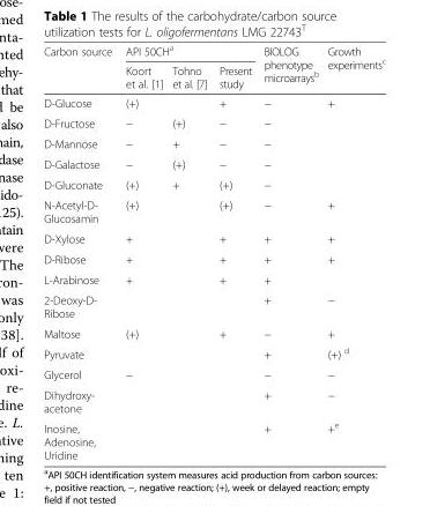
<table><thead><tr><td rowspan="2">Carbon source</td><td colspan="3">API 50CH<sup>a</sup></td><td rowspan="2">BIOLOG phenotype microarrays<sup>b</sup></td><td rowspan="2">Growth experiments<sup>c</sup></td></tr><tr><td>Koort et al. [1]</td><td>Tohno et al. [7]</td><td>Present study</td></tr></thead><tbody><tr><td>D-Glucose</td><td>(+)</td><td></td><td>+</td><td>−</td><td>+</td></tr><tr><td>D-Fructose</td><td>−</td><td>(+)</td><td>−</td><td>−</td><td></td></tr><tr><td>D-Mannose</td><td>−</td><td>+</td><td>−</td><td>−</td><td></td></tr><tr><td>D-Galactose</td><td>−</td><td>(+)</td><td>−</td><td>−</td><td></td></tr><tr><td>D-Gluconate</td><td>(+)</td><td>+</td><td>(+)</td><td>−</td><td></td></tr><tr><td>N-Acetyl-D- Glucosamin</td><td>(+)</td><td></td><td>(+)</td><td>−</td><td>+</td></tr><tr><td>D-Xylose</td><td>+</td><td></td><td>+</td><td>+</td><td>+</td></tr><tr><td>D-Ribose</td><td>+</td><td></td><td>+</td><td>+</td><td>+</td></tr><tr><td>L-Arabinose</td><td>+</td><td></td><td>+</td><td>+</td><td></td></tr><tr><td>2-Deoxy-D- Ribose</td><td></td><td></td><td></td><td>+</td><td>−</td></tr><tr><td>Maltose</td><td>(+)</td><td></td><td>+</td><td>−</td><td>+</td></tr><tr><td>Pyruvate</td><td></td><td></td><td></td><td>+</td><td>(+) <sup>d</sup></td></tr><tr><td>Glycerol</td><td>−</td><td></td><td></td><td>−</td><td>−</td></tr><tr><td>Dihydroxy- acetone</td><td></td><td></td><td></td><td>+</td><td>−</td></tr><tr><td>Inosine, Adenosine, Uridine</td><td></td><td></td><td></td><td>+</td><td>+<sup>e</sup></td></tr></tbody></table>